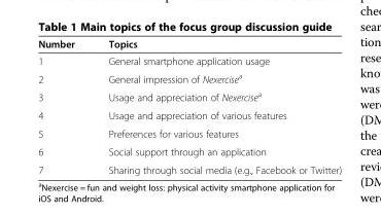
<table><thead><tr><td>Number</td><td>Topics</td></tr></thead><tbody><tr><td>1</td><td>General smartphone application usage</td></tr><tr><td>2</td><td>General impression of Nexercise<sup>a</sup></td></tr><tr><td>3</td><td>Usage and appreciation of Nexercise<sup>a</sup></td></tr><tr><td>4</td><td>Usage and appreciation of various features</td></tr><tr><td>5</td><td>Preferences for various features</td></tr><tr><td>6</td><td>Social support through an application</td></tr><tr><td>7</td><td>Sharing through social media (e.g., Facebook or Twitter)</td></tr></tbody></table>